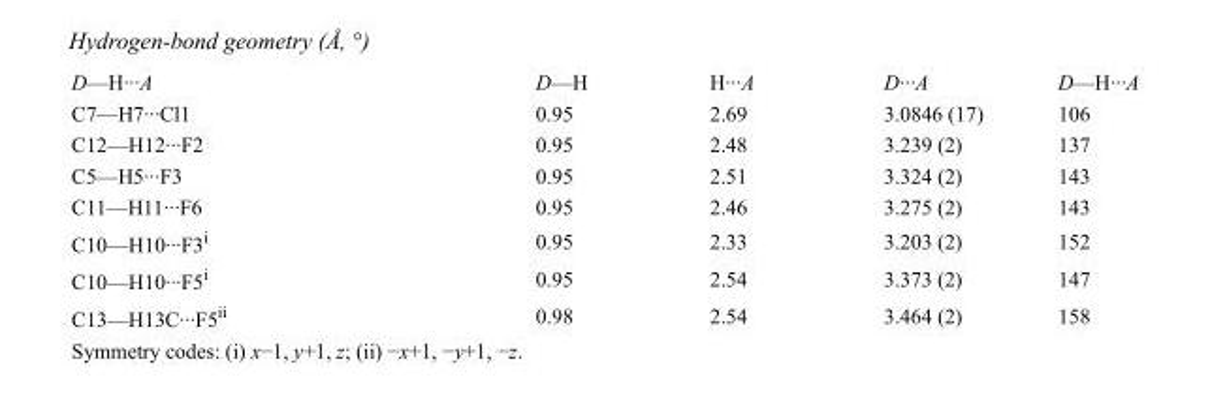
<table><tbody><tr><td>D—H···A</td><td>D—H</td><td>H···A</td><td>D···A</td><td>D—H···A</td></tr><tr><td>C7—H7···Cl1</td><td>0.95</td><td>2.69</td><td>3.0846 (17)</td><td>106</td></tr><tr><td>C12—H12···F2</td><td>0.95</td><td>2.48</td><td>3.239 (2)</td><td>137</td></tr><tr><td>C5—H5···F3</td><td>0.95</td><td>2.51</td><td>3.324 (2)</td><td>143</td></tr><tr><td>C11—H11···F6</td><td>0.95</td><td>2.46</td><td>3.275 (2)</td><td>143</td></tr><tr><td>C10—H10···F3<sup>i</sup></td><td>0.95</td><td>2.33</td><td>3.203 (2)</td><td>152</td></tr><tr><td>C10—H10···F5<sup>i</sup></td><td>0.95</td><td>2.54</td><td>3.373 (2)</td><td>147</td></tr><tr><td>C13—H13C···F5<sup>ii</sup></td><td>0.98</td><td>2.54</td><td>3.464 (2)</td><td>158</td></tr></tbody></table>